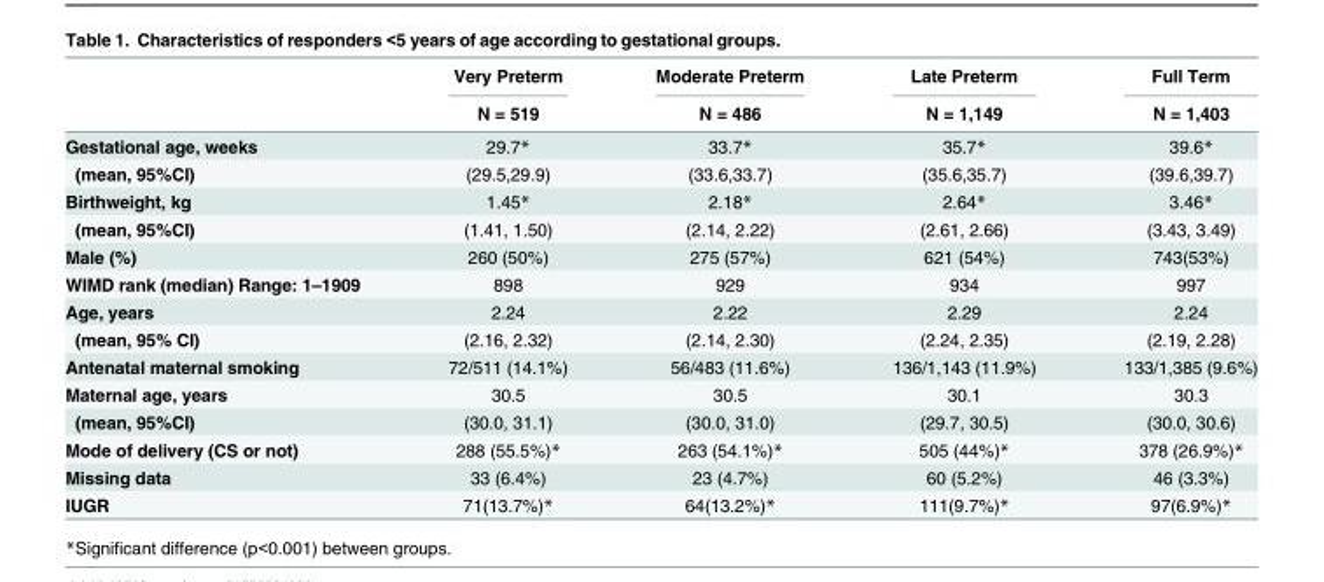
<table><thead><tr><td rowspan="2"></td><td rowspan="2">Very Preterm N = 519</td><td rowspan="2">Moderate Preterm N = 486</td><td rowspan="2">Late Preterm N = 1,149</td><td rowspan="2">Full Term N = 1,403</td></tr><tr></tr></thead><tbody><tr><td>Gestational age, weeks</td><td>29.7*</td><td>33.7*</td><td>35.7*</td><td>39.6*</td></tr><tr><td>(mean, 95%CI)</td><td>(29.5,29.9)</td><td>(33.6,33.7)</td><td>(35.6,35.7)</td><td>(39.6,39.7)</td></tr><tr><td>Birthweight, kg</td><td>1.45*</td><td>2.18*</td><td>2.64*</td><td>3.46*</td></tr><tr><td>(mean, 95%CI)</td><td>(1.41, 1.50)</td><td>(2.14, 2.22)</td><td>(2.61, 2.66)</td><td>(3.43, 3.49)</td></tr><tr><td>Male (%)</td><td>260 (50%)</td><td>275 (57%)</td><td>621 (54%)</td><td>743(53%)</td></tr><tr><td>WIMD rank (median) Range: 1–1909</td><td>898</td><td>929</td><td>934</td><td>997</td></tr><tr><td>Age, years</td><td>2.24</td><td>2.22</td><td>2.29</td><td>2.24</td></tr><tr><td>(mean, 95% CI)</td><td>(2.16, 2.32)</td><td>(2.14, 2.30)</td><td>(2.24, 2.35)</td><td>(2.19, 2.28)</td></tr><tr><td>Antenatal maternal smoking</td><td>72/511 (14.1%)</td><td>56/483 (11.6%)</td><td>136/1,143 (11.9%)</td><td>133/1,385 (9.6%)</td></tr><tr><td>Maternal age, years</td><td>30.5</td><td>30.5</td><td>30.1</td><td>30.3</td></tr><tr><td>(mean, 95%CI)</td><td>(30.0, 31.1)</td><td>(30.0, 31.0)</td><td>(29.7, 30.5)</td><td>(30.0, 30.6)</td></tr><tr><td>Mode of delivery (CS or not)</td><td>288 (55.5%)*</td><td>263 (54.1%)*</td><td>505 (44%)*</td><td>378 (26.9%)*</td></tr><tr><td>Missing data</td><td>33 (6.4%)</td><td>23 (4.7%)</td><td>60 (5.2%)</td><td>46 (3.3%)</td></tr><tr><td>IUGR</td><td>71(13.7%)*</td><td>64(13.2%)*</td><td>111(9.7%)*</td><td>97(6.9%)*</td></tr></tbody></table>